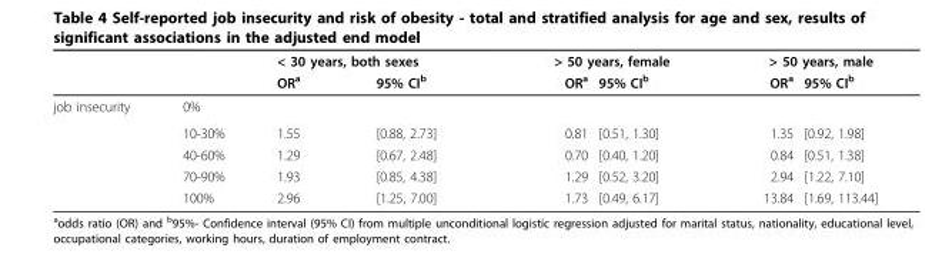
<table><thead><tr><td rowspan="2"></td><td rowspan="2"></td><td colspan="2">&lt; 30 years, both sexes</td><td colspan="2">&gt; 50 years, female</td><td colspan="2">&gt; 50 years, male</td></tr><tr><td>OR<sup>a</sup></td><td>95% CI<sup>b</sup></td><td>OR<sup>a</sup></td><td>95% CI<sup>b</sup></td><td>OR<sup>a</sup></td><td>95% CI<sup>b</sup></td></tr></thead><tbody><tr><td rowspan="5">job insecurity</td><td>0%</td><td></td><td></td><td></td><td></td><td></td><td></td></tr><tr><td>10-30%</td><td>1.55</td><td>[0.88, 2.73]</td><td>0.81</td><td>[0.51, 1.30]</td><td>1.35</td><td>[0.92, 1.98]</td></tr><tr><td>40-60%</td><td>1.29</td><td>[0.67, 2.48]</td><td>0.70</td><td>[0.40, 1.20]</td><td>0.84</td><td>[0.51, 1.38]</td></tr><tr><td>70-90%</td><td>1.93</td><td>[0.85, 4.38]</td><td>1.29</td><td>[0.52, 3.20]</td><td>2.94</td><td>[1.22, 7.10]</td></tr><tr><td>100%</td><td>2.96</td><td>[1.25, 7.00]</td><td>1.73</td><td>[0.49, 6.17]</td><td>13.84</td><td>[1.69, 113.44]</td></tr></tbody></table>